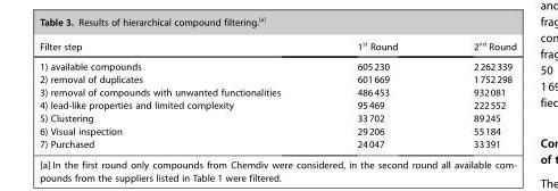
<table><thead><tr><td>Filter step</td><td>1<sup>st</sup> Round</td><td>2<sup>nd</sup> Round</td></tr></thead><tbody><tr><td>1) available compounds</td><td>605230</td><td>2262339</td></tr><tr><td>2) removal of duplicates</td><td>601669</td><td>1752298</td></tr><tr><td>3) removal of compounds with unwanted functionalities</td><td>486453</td><td>932081</td></tr><tr><td>4) lead-like properties and limited complexity</td><td>95469</td><td>222552</td></tr><tr><td>5) Clustering</td><td>33702</td><td>89245</td></tr><tr><td>6) Visual inspection</td><td>29206</td><td>55184</td></tr><tr><td>7) Purchased</td><td>24047</td><td>33391</td></tr></tbody></table>